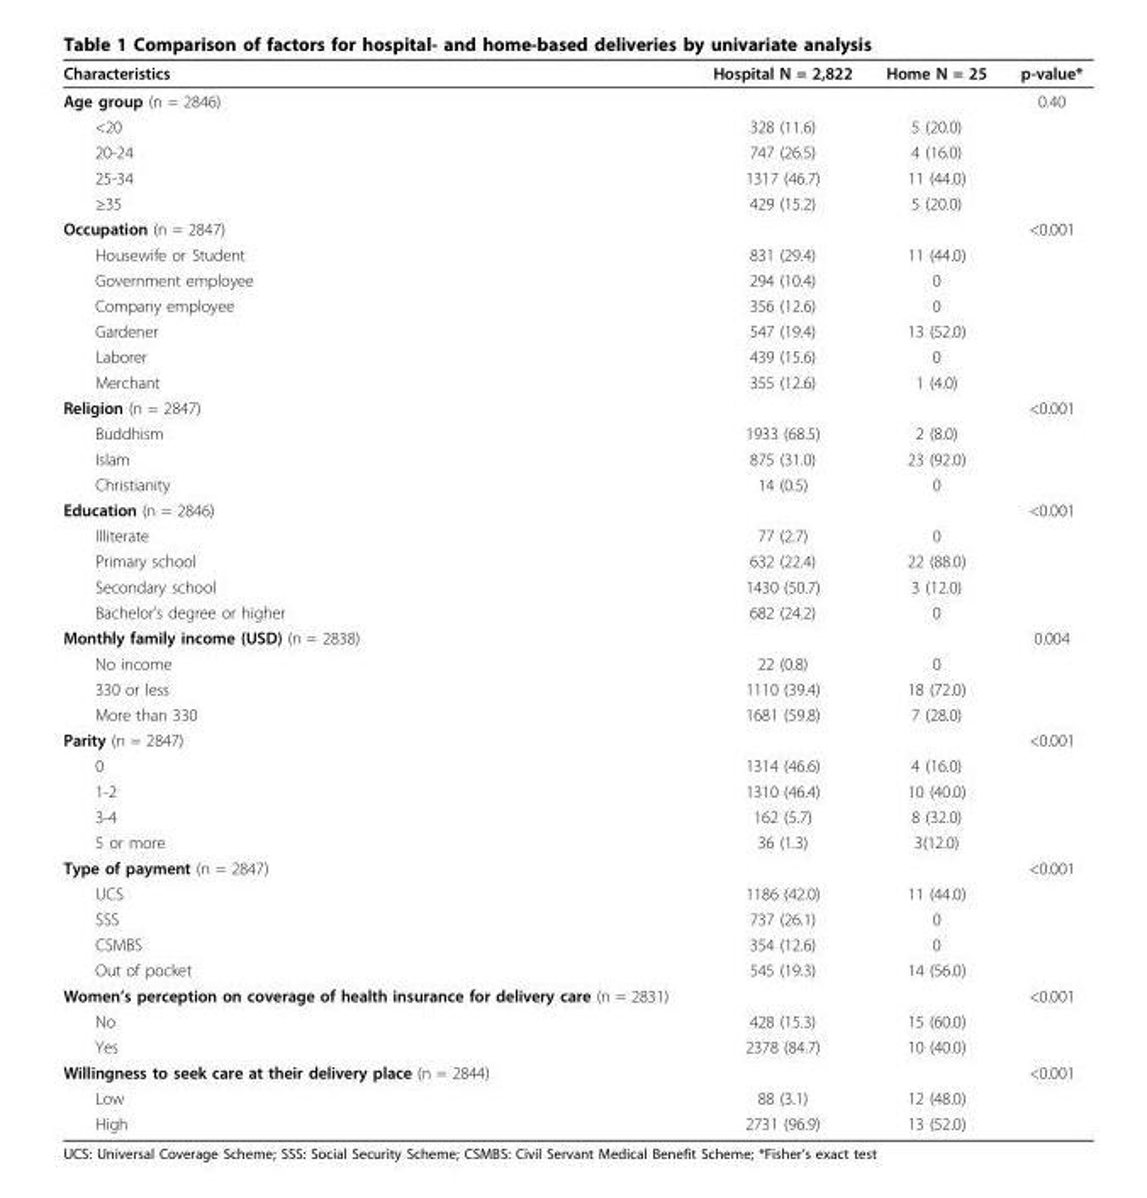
<table><thead><tr><td>Characteristics</td><td>Hospital N = 2,822</td><td>Home N = 25</td><td>p-value*</td></tr></thead><tbody><tr><td>Age group (n = 2846)</td><td></td><td></td><td>0.40</td></tr><tr><td>&lt;20</td><td>328 (11.6)</td><td>5 (20.0)</td><td></td></tr><tr><td>20-24</td><td>747 (26.5)</td><td>4 (16.0)</td><td></td></tr><tr><td>25-34</td><td>1317 (46.7)</td><td>11 (44.0)</td><td></td></tr><tr><td>≥35</td><td>429 (15.2)</td><td>5 (20.0)</td><td></td></tr><tr><td>Occupation (n = 2847)</td><td></td><td></td><td>&lt;0.001</td></tr><tr><td>Housewife or Student</td><td>831 (29.4)</td><td>11 (44.0)</td><td></td></tr><tr><td>Government employee</td><td>294 (10.4)</td><td>0</td><td></td></tr><tr><td>Company employee</td><td>356 (12.6)</td><td>0</td><td></td></tr><tr><td>Gardener</td><td>547 (19.4)</td><td>13 (52.0)</td><td></td></tr><tr><td>Laborer</td><td>439 (15.6)</td><td>0</td><td></td></tr><tr><td>Merchant</td><td>355 (12.6)</td><td>1 (4.0)</td><td></td></tr><tr><td>Religion (n = 2847)</td><td></td><td></td><td>&lt;0.001</td></tr><tr><td>Buddhism</td><td>1933 (68.5)</td><td>2 (8.0)</td><td></td></tr><tr><td>Islam</td><td>875 (31.0)</td><td>23 (92.0)</td><td></td></tr><tr><td>Christianity</td><td>14 (0.5)</td><td>0</td><td></td></tr><tr><td>Education (n = 2846)</td><td></td><td></td><td>&lt;0.001</td></tr><tr><td>Illiterate</td><td>77 (2.7)</td><td>0</td><td></td></tr><tr><td>Primary school</td><td>632 (22.4)</td><td>22 (88.0)</td><td></td></tr><tr><td>Secondary school</td><td>1430 (50.7)</td><td>3 (12.0)</td><td></td></tr><tr><td>Bachelor’s degree or higher</td><td>682 (24.2)</td><td>0</td><td></td></tr><tr><td>Monthly family income (USD) (n = 2838)</td><td></td><td></td><td>0.004</td></tr><tr><td>No income</td><td>22 (0.8)</td><td>0</td><td></td></tr><tr><td>330 or less</td><td>1110 (39.4)</td><td>18 (72.0)</td><td></td></tr><tr><td>More than 330</td><td>1681 (59.8)</td><td>7 (28.0)</td><td></td></tr><tr><td>Parity (n = 2847)</td><td></td><td></td><td>&lt;0.001</td></tr><tr><td>0</td><td>1314 (46.6)</td><td>4 (16.0)</td><td></td></tr><tr><td>1-2</td><td>1310 (46.4)</td><td>10 (40.0)</td><td></td></tr><tr><td>3-4</td><td>162 (5.7)</td><td>8 (32.0)</td><td></td></tr><tr><td>5 or more</td><td>36 (1.3)</td><td>3(12.0)</td><td></td></tr><tr><td>Type of payment (n = 2847)</td><td></td><td></td><td>&lt;0.001</td></tr><tr><td>UCS</td><td>1186 (42.0)</td><td>11 (44.0)</td><td></td></tr><tr><td>SSS</td><td>737 (26.1)</td><td>0</td><td></td></tr><tr><td>CSMBS</td><td>354 (12.6)</td><td>0</td><td></td></tr><tr><td>Out of pocket</td><td>545 (19.3)</td><td>14 (56.0)</td><td></td></tr><tr><td>Women’s perception on coverage of health insurance for delivery care (n = 2831)</td><td></td><td></td><td>&lt;0.001</td></tr><tr><td>No</td><td>428 (15.3)</td><td>15 (60.0)</td><td></td></tr><tr><td>Yes</td><td>2378 (84.7)</td><td>10 (40.0)</td><td></td></tr><tr><td>Willingness to seek care at their delivery place (n = 2844)</td><td></td><td></td><td>&lt;0.001</td></tr><tr><td>Low</td><td>88 (3.1)</td><td>12 (48.0)</td><td></td></tr><tr><td>High</td><td>2731 (96.9)</td><td>13 (52.0)</td><td></td></tr></tbody></table>